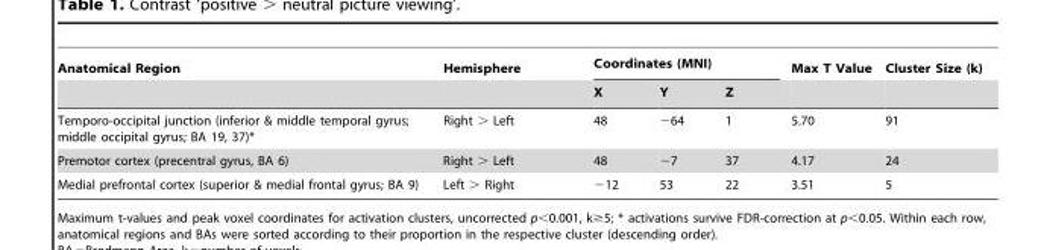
<table><thead><tr><td rowspan="2">Anatomical Region</td><td rowspan="2">Hemisphere</td><td colspan="3">Coordinates (MNI)</td><td rowspan="2">Max T Value</td><td rowspan="2">Cluster Size (k)</td></tr><tr><td>X</td><td>Y</td><td>Z</td></tr></thead><tbody><tr><td>Temporo-occipital junction (inferior &amp; middle temporal gyrus; middle occipital gyrus; BA 19, 37)*</td><td>Right &gt; Left</td><td>48</td><td>−64</td><td>1</td><td>5.70</td><td>91</td></tr><tr><td>Premotor cortex (precentral gyrus, BA 6)</td><td>Right &gt; Left</td><td>48</td><td>−7</td><td>37</td><td>4.17</td><td>24</td></tr><tr><td>Medial prefrontal cortex (superior &amp; medial frontal gyrus; BA 9)</td><td>Left &gt; Right</td><td>−12</td><td>53</td><td>22</td><td>3.51</td><td>5</td></tr></tbody></table>